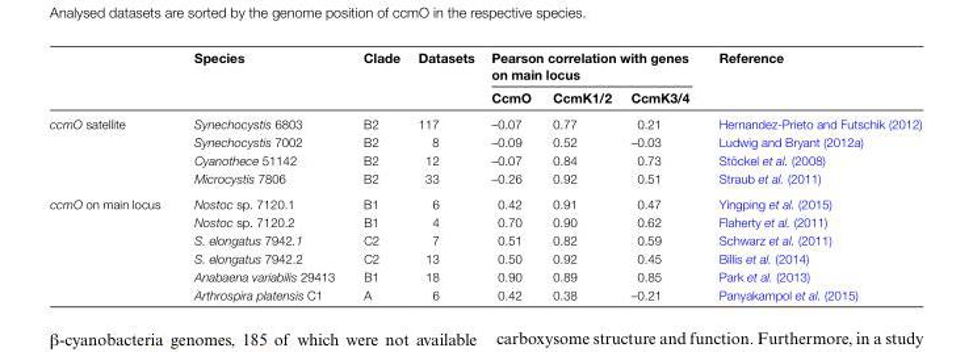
<table><thead><tr><td rowspan="2"></td><td rowspan="2">Species</td><td rowspan="2">Clade</td><td rowspan="2">Datasets</td><td colspan="3">Pearson correlation with genes on main locus</td><td rowspan="2">Reference</td></tr><tr><td>CcmO</td><td>CcmK1/2</td><td>CcmK3/4</td></tr></thead><tbody><tr><td rowspan="4">ccmO satellite</td><td>Synechocystis 6803</td><td>B2</td><td>117</td><td>–0.07</td><td>0.77</td><td>0.21</td><td>Hernandez-Prieto and Futschik (2012)</td></tr><tr><td>Synechocystis 7002</td><td>B2</td><td>8</td><td>–0.09</td><td>0.52</td><td>–0.03</td><td>Ludwig and Bryant (2012a)</td></tr><tr><td>Cyanothece 51142</td><td>B2</td><td>12</td><td>–0.07</td><td>0.84</td><td>0.73</td><td>Stöckel et al. (2008)</td></tr><tr><td>Microcystis 7806</td><td>B2</td><td>33</td><td>–0.26</td><td>0.92</td><td>0.51</td><td>Straub et al. (2011)</td></tr><tr><td rowspan="6">ccmO on main locus</td><td>Nostoc sp. 7120.1</td><td>B1</td><td>6</td><td>0.42</td><td>0.91</td><td>0.47</td><td>Yingping et al. (2015)</td></tr><tr><td>Nostoc sp. 7120.2</td><td>B1</td><td>4</td><td>0.70</td><td>0.90</td><td>0.62</td><td>Flaherty et al. (2011)</td></tr><tr><td>S. elongatus 7942.1</td><td>C2</td><td>7</td><td>0.51</td><td>0.82</td><td>0.59</td><td>Schwarz et al. (2011)</td></tr><tr><td>S. elongatus 7942.2</td><td>C2</td><td>13</td><td>0.50</td><td>0.92</td><td>0.45</td><td>Billis et al. (2014)</td></tr><tr><td>Anabaena variabilis 29413</td><td>B1</td><td>18</td><td>0.90</td><td>0.89</td><td>0.85</td><td>Park et al. (2013)</td></tr><tr><td>Arthrospira platensis C1</td><td>A</td><td>6</td><td>0.42</td><td>0.38</td><td>–0.21</td><td>Panyakampol et al. (2015)</td></tr></tbody></table>